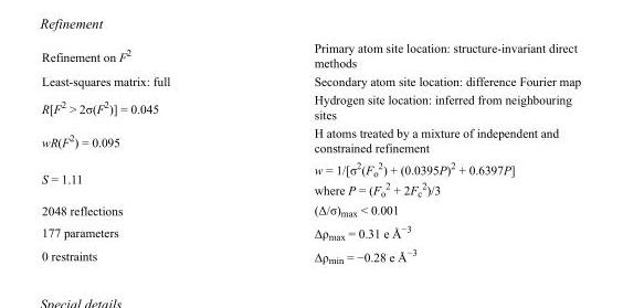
<table><tbody><tr><td>Refinement on F<sup>2</sup></td><td>Primary atom site location: structure-invariant direct methods</td></tr><tr><td>Least-squares matrix: full</td><td>Secondary atom site location: difference Fourier map</td></tr><tr><td>R[F<sup>2</sup> &gt; 2σ(F<sup>2</sup>)] = 0.045</td><td>Hydrogen site location: inferred from neighbouring sites</td></tr><tr><td>wR(F<sup>2</sup>) = 0.095</td><td>H atoms treated by a mixture of independent and constrained refinement</td></tr><tr><td>S = 1.11</td><td>w = 1/[σ<sup>2</sup>(F<sub>o</sub> <sup>2</sup>) + (0.0395P)<sup>2</sup> + 0.6397P] where P = (F<sub>o</sub> <sup>2</sup> + 2F<sub>c</sub> <sup>2</sup>)/3</td></tr><tr><td>2048 reflections</td><td>(Δ/σ)<sub>max</sub> &lt; 0.001</td></tr><tr><td>177 parameters</td><td>Δρ<sub>max</sub> = 0.31 e Å<sup>−3</sup></td></tr><tr><td>0 restraints</td><td>Δρ<sub>min</sub> = −0.28 e Å<sup>−3</sup></td></tr></tbody></table>